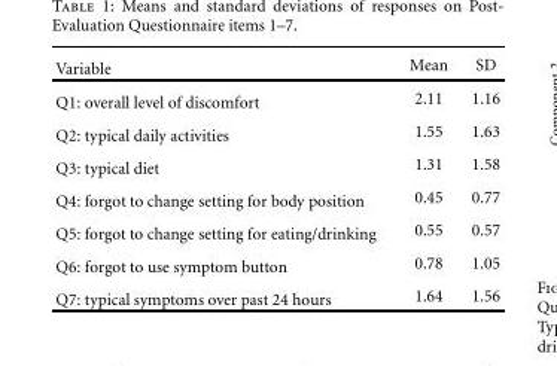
<table><thead><tr><td>Variable</td><td>Mean</td><td>SD</td></tr></thead><tbody><tr><td>Q1: overall level of discomfort</td><td>2.11</td><td>1.16</td></tr><tr><td>Q2: typical daily activities</td><td>1.55</td><td>1.63</td></tr><tr><td>Q3: typical diet</td><td>1.31</td><td>1.58</td></tr><tr><td>Q4: forgot to change setting for body position</td><td>0.45</td><td>0.77</td></tr><tr><td>Q5: forgot to change setting for eating/drinking</td><td>0.55</td><td>0.57</td></tr><tr><td>Q6: forgot to use symptom button</td><td>0.78</td><td>1.05</td></tr><tr><td>Q7: typical symptoms over past 24 hours</td><td>1.64</td><td>1.56</td></tr></tbody></table>